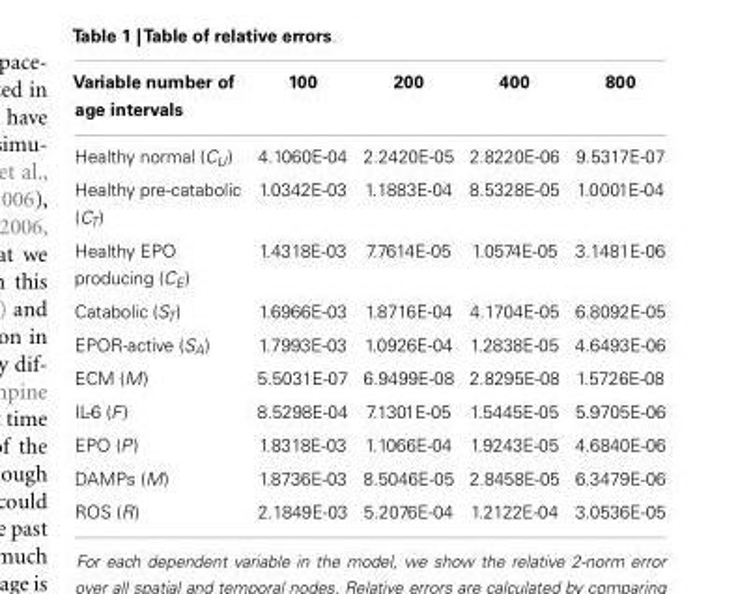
<table><thead><tr><td>Variable number of age intervals</td><td>100</td><td>200</td><td>400</td><td>800</td></tr></thead><tbody><tr><td>Healthy normal (C<sub>U</sub>)</td><td>4.1060E-04</td><td>2.2420E-05</td><td>2.8220E-06</td><td>9.5317E-07</td></tr><tr><td>Healthy pre-catabolic (C<sub>T</sub>)</td><td>1.0342E-03</td><td>1.1883E-04</td><td>8.5328E-05</td><td>1.0001E-04</td></tr><tr><td>Healthy EPO producing (C<sub>E</sub>)</td><td>1.4318E-03</td><td>7.7614E-05</td><td>1.0574E-05</td><td>3.1481E-06</td></tr><tr><td>Catabolic (S<sub>T</sub>)</td><td>1.6966E-03</td><td>1.8716E-04</td><td>4.1704E-05</td><td>6.8092E-05</td></tr><tr><td>EPOR-active (S<sub>A</sub>)</td><td>1.7993E-03</td><td>1.0926E-04</td><td>1.2838E-05</td><td>4.6493E-06</td></tr><tr><td>ECM (M)</td><td>5.5031E-07</td><td>6.9499E-08</td><td>2.8295E-08</td><td>1.5726E-08</td></tr><tr><td>IL-6 (F)</td><td>8.5298E-04</td><td>7.1301E-05</td><td>1.5445E-05</td><td>5.9705E-06</td></tr><tr><td>EPO (P)</td><td>1.8318E-03</td><td>1.1066E-04</td><td>1.9243E-05</td><td>4.6840E-06</td></tr><tr><td>DAMPs (M)</td><td>1.8736E-03</td><td>8.5046E-05</td><td>2.8458E-05</td><td>6.3479E-06</td></tr><tr><td>ROS (R)</td><td>2.1849E-03</td><td>5.2076E-04</td><td>1.2122E-04</td><td>3.0536E-05</td></tr></tbody></table>